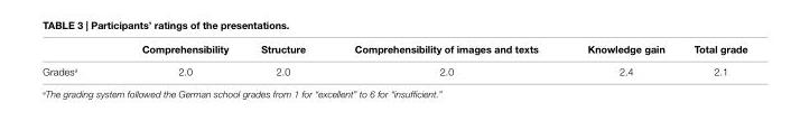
<table><thead><tr><td></td><td>Comprehensibility</td><td>structure</td><td>Comprehensibility of images and texts</td><td>Knowledge gain</td><td>total grade</td></tr></thead><tbody><tr><td>Grades<sup>a</sup></td><td>2.0</td><td>2.0</td><td>2.0</td><td>2.4</td><td>2.1</td></tr></tbody></table>